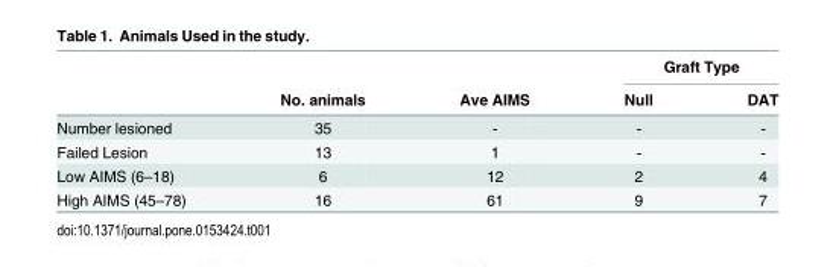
<table><thead><tr><td rowspan="2"></td><td rowspan="2">No. animals</td><td rowspan="2">Ave AIMS</td><td colspan="2">Graft Type</td></tr><tr><td>Null</td><td>DAT</td></tr></thead><tbody><tr><td>Number lesioned</td><td>35</td><td>-</td><td>-</td><td>-</td></tr><tr><td>Failed Lesion</td><td>13</td><td>1</td><td>-</td><td>-</td></tr><tr><td>Low AIMS (6–18)</td><td>6</td><td>12</td><td>2</td><td>4</td></tr><tr><td>High AIMS (45–78)</td><td>16</td><td>61</td><td>9</td><td>7</td></tr></tbody></table>